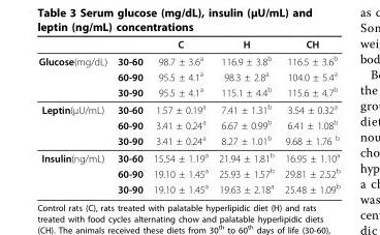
<table><thead><tr><td></td><td></td><td>C</td><td>H</td><td>CH</td></tr></thead><tbody><tr><td rowspan="3">Glucose(mg/dL)</td><td>30-60</td><td>98.7 ± 3.6<sup>a</sup></td><td>116.9 ± 3.8<sup>b</sup></td><td>116.5 ± 3.6<sup>b</sup></td></tr><tr><td>60-90</td><td>95.5 ± 4.1<sup>a</sup></td><td>98.3 ± 2.8<sup>a</sup></td><td>104.0 ± 5.4<sup>a</sup></td></tr><tr><td>30-90</td><td>95.5 ± 4.1<sup>a</sup></td><td>115.1 ± 4.4<sup>b</sup></td><td>115.6 ± 4.7<sup>b</sup></td></tr><tr><td rowspan="3">Leptin(μU/mL)</td><td>30-60</td><td>1.57 ± 0.19<sup>a</sup></td><td>7.41 ± 1.31<sup>b</sup></td><td>3.54 ± 0.32<sup>a</sup></td></tr><tr><td>60-90</td><td>3.41 ± 0.24<sup>a</sup></td><td>6.67 ± 0.99<sup>b</sup></td><td>6.41 ± 1.08<sup>b</sup></td></tr><tr><td>30-90</td><td>3.41 ± 0.24<sup>a</sup></td><td>8.27 ± 1.01<sup>b</sup></td><td>9.68 ± 1.76 <sup>b</sup></td></tr><tr><td rowspan="3">Insulin(ng/mL)</td><td>30-60</td><td>15.54 ± 1.19<sup>a</sup></td><td>21.94 ± 1.81<sup>b</sup></td><td>16.95 ± 1.10<sup>a</sup></td></tr><tr><td>60-90</td><td>19.10 ± 1.45<sup>a</sup></td><td>25.93 ± 1.57<sup>b</sup></td><td>29.81 ± 2.52<sup>b</sup></td></tr><tr><td>30-90</td><td>19.10 ± 1.45<sup>a</sup></td><td>19.63 ± 2.18<sup>a</sup></td><td>25.48 ± 1.09<sup>b</sup></td></tr></tbody></table>